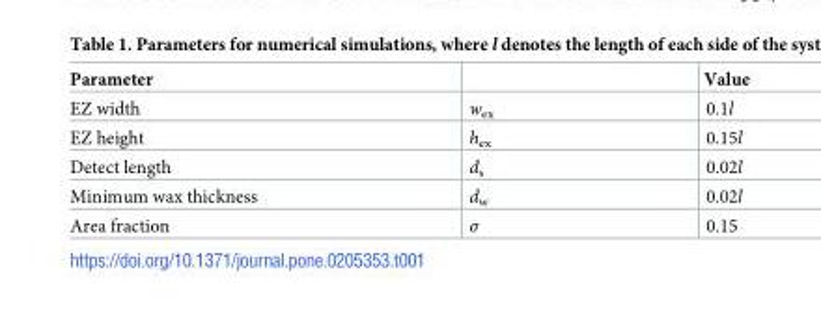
<table><thead><tr><td>Parameter</td><td></td><td>Value</td></tr></thead><tbody><tr><td>EZ width</td><td>w<sub>ex</sub></td><td>0.1l</td></tr><tr><td>EZ height</td><td>h<sub>ex</sub></td><td>0.15l</td></tr><tr><td>Detect length</td><td>d<sub>s</sub></td><td>0.02l</td></tr><tr><td>Minimum wax thickness</td><td>d<sub>w</sub></td><td>0.02l</td></tr><tr><td>Area fraction</td><td>σ</td><td>0.15</td></tr></tbody></table>